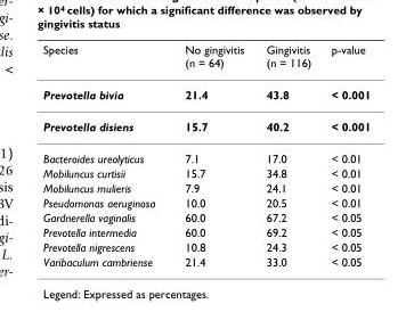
<table><thead><tr><td>Species</td><td>No gingivitis (n = 64)</td><td>Gingivitis (n = 116)</td><td>p-value</td></tr></thead><tbody><tr><td>Prevotella bivia</td><td>21.4</td><td>43.8</td><td>&lt; 0.001</td></tr><tr><td>Prevotella disiens</td><td>15.7</td><td>40.2</td><td>&lt; 0.001</td></tr><tr><td>Bacteroides ureolyticus</td><td>7.1</td><td>17.0</td><td>&lt; 0.01</td></tr><tr><td>Mobiluncus curtisii</td><td>15.7</td><td>34.8</td><td>&lt; 0.01</td></tr><tr><td>Mobiluncus mulieris</td><td>7.9</td><td>24.1</td><td>&lt; 0.01</td></tr><tr><td>Pseudomonas aeruginosa</td><td>10.0</td><td>20.5</td><td>&lt; 0.01</td></tr><tr><td>Gardnerella vaginalis</td><td>60.0</td><td>67.2</td><td>&lt; 0.05</td></tr><tr><td>Prevotella intermedia</td><td>60.0</td><td>69.2</td><td>&lt; 0.05</td></tr><tr><td>Prevotella nigrescens</td><td>10.8</td><td>24.3</td><td>&lt; 0.05</td></tr><tr><td>Varibaculum cambriense</td><td>21.4</td><td>33.0</td><td>&lt; 0.05</td></tr></tbody></table>